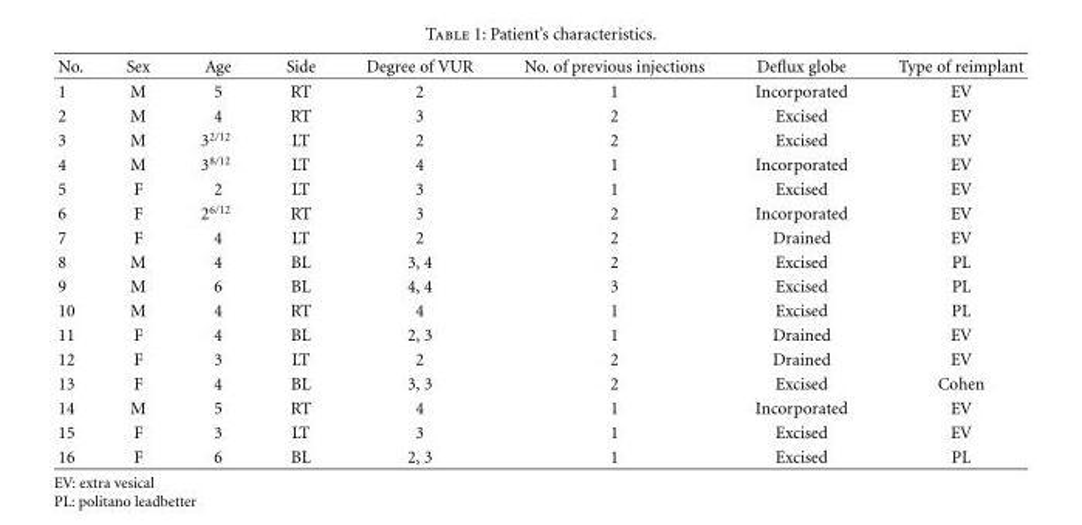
<table><thead><tr><td>No.</td><td>Sex</td><td>Age</td><td>Side</td><td>Degree of VUR</td><td>No. of previous injections</td><td>Deflux globe</td><td>Type of reimplant</td></tr></thead><tbody><tr><td>1</td><td>M</td><td>5</td><td>RT</td><td>2</td><td>1</td><td>Incorporated</td><td>EV</td></tr><tr><td>2</td><td>M</td><td>4</td><td>RT</td><td>3</td><td>2</td><td>Excised</td><td>EV</td></tr><tr><td>3</td><td>M</td><td>3<sup>2/12</sup></td><td>LT</td><td>2</td><td>2</td><td>Excised</td><td>EV</td></tr><tr><td>4</td><td>M</td><td>3<sup>8/12</sup></td><td>LT</td><td>4</td><td>1</td><td>Incorporated</td><td>EV</td></tr><tr><td>5</td><td>F</td><td>2</td><td>LT</td><td>3</td><td>1</td><td>Excised</td><td>EV</td></tr><tr><td>6</td><td>F</td><td>2<sup>6/12</sup></td><td>RT</td><td>3</td><td>2</td><td>Incorporated</td><td>EV</td></tr><tr><td>7</td><td>F</td><td>4</td><td>LT</td><td>2</td><td>2</td><td>Drained</td><td>EV</td></tr><tr><td>8</td><td>M</td><td>4</td><td>BL</td><td>3, 4</td><td>2</td><td>Excised</td><td>PL</td></tr><tr><td>9</td><td>M</td><td>6</td><td>BL</td><td>4, 4</td><td>3</td><td>Excised</td><td>PL</td></tr><tr><td>10</td><td>M</td><td>4</td><td>RT</td><td>4</td><td>1</td><td>Excised</td><td>PL</td></tr><tr><td>11</td><td>F</td><td>4</td><td>BL</td><td>2, 3</td><td>1</td><td>Drained</td><td>EV</td></tr><tr><td>12</td><td>F</td><td>3</td><td>LT</td><td>2</td><td>2</td><td>Drained</td><td>EV</td></tr><tr><td>13</td><td>F</td><td>4</td><td>BL</td><td>3, 3</td><td>2</td><td>Excised</td><td>Cohen</td></tr><tr><td>14</td><td>M</td><td>5</td><td>RT</td><td>4</td><td>1</td><td>Incorporated</td><td>EV</td></tr><tr><td>15</td><td>F</td><td>3</td><td>LT</td><td>3</td><td>1</td><td>Excised</td><td>EV</td></tr><tr><td>16</td><td>F</td><td>6</td><td>BL</td><td>2, 3</td><td>1</td><td>Excised</td><td>PL</td></tr></tbody></table>